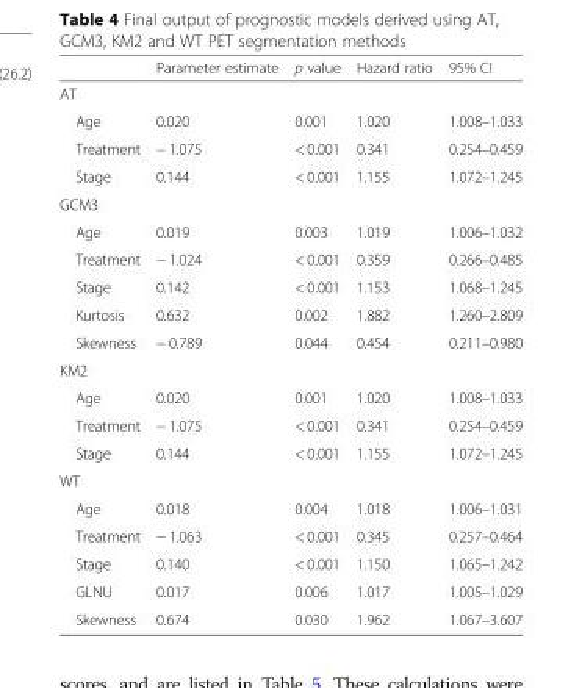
<table><thead><tr><td></td><td>Parameter estimate</td><td>p value</td><td>Hazard ratio</td><td>95% CI</td></tr></thead><tbody><tr><td colspan="5">AT</td></tr><tr><td>Age</td><td>0.020</td><td>0.001</td><td>1.020</td><td>1.008–1.033</td></tr><tr><td>Treatment</td><td>− 1.075</td><td>&lt; 0.001</td><td>0.341</td><td>0.254–0.459</td></tr><tr><td>Stage</td><td>0.144</td><td>&lt; 0.001</td><td>1.155</td><td>1.072–1.245</td></tr><tr><td colspan="5">GCM3</td></tr><tr><td>Age</td><td>0.019</td><td>0.003</td><td>1.019</td><td>1.006–1.032</td></tr><tr><td>Treatment</td><td>− 1.024</td><td>&lt; 0.001</td><td>0.359</td><td>0.266–0.485</td></tr><tr><td>Stage</td><td>0.142</td><td>&lt; 0.001</td><td>1.153</td><td>1.068–1.245</td></tr><tr><td>Kurtosis</td><td>0.632</td><td>0.002</td><td>1.882</td><td>1.260–2.809</td></tr><tr><td>Skewness</td><td>− 0.789</td><td>0.044</td><td>0.454</td><td>0.211–0.980</td></tr><tr><td colspan="5">KM2</td></tr><tr><td>Age</td><td>0.020</td><td>0.001</td><td>1.020</td><td>1.008–1.033</td></tr><tr><td>Treatment</td><td>− 1.075</td><td>&lt; 0.001</td><td>0.341</td><td>0.254–0.459</td></tr><tr><td>Stage</td><td>0.144</td><td>&lt; 0.001</td><td>1.155</td><td>1.072–1.245</td></tr><tr><td colspan="5">WT</td></tr><tr><td>Age</td><td>0.018</td><td>0.004</td><td>1.018</td><td>1.006–1.031</td></tr><tr><td>Treatment</td><td>− 1.063</td><td>&lt; 0.001</td><td>0.345</td><td>0.257–0.464</td></tr><tr><td>Stage</td><td>0.140</td><td>&lt; 0.001</td><td>1.150</td><td>1.065–1.242</td></tr><tr><td>GLNU</td><td>0.017</td><td>0.006</td><td>1.017</td><td>1.005–1.029</td></tr><tr><td>Skewness</td><td>0.674</td><td>0.030</td><td>1.962</td><td>1.067–3.607</td></tr></tbody></table>